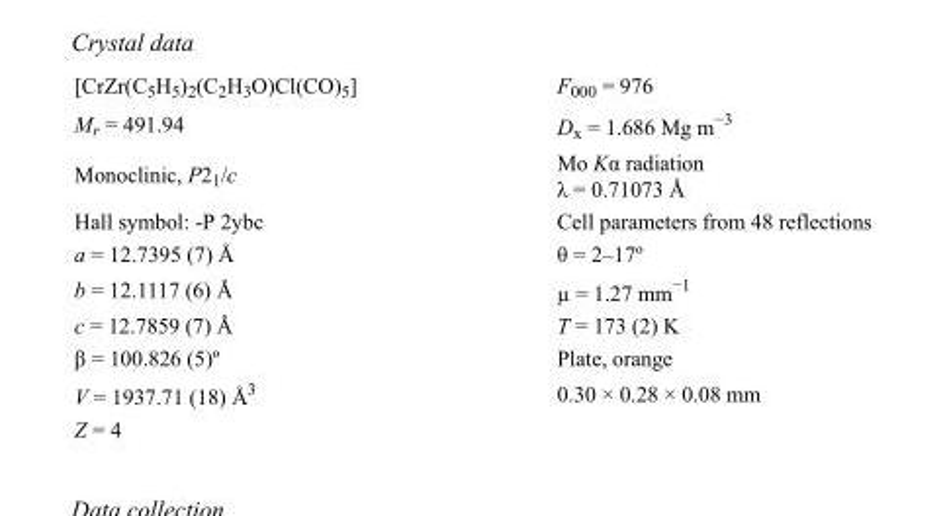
<table><tbody><tr><td>[CrZr(C<sub>5</sub>H<sub>5</sub>)<sub>2</sub>(C<sub>2</sub>H<sub>3</sub>O)Cl(CO)<sub>5</sub>]</td><td>F000 = 976</td></tr><tr><td>M<sub>r</sub> = 491.94</td><td>D<sub>x</sub> = 1.686 Mg m<sup>−3</sup></td></tr><tr><td>Monoclinic, P2<sub>1</sub>/c</td><td>Mo Kα radiation λ = 0.71073 Å</td></tr><tr><td>Hall symbol: -P 2ybc</td><td>Cell parameters from 48 reflections</td></tr><tr><td>a = 12.7395 (7) Å</td><td>θ = 2–17º</td></tr><tr><td>b = 12.1117 (6) Å</td><td>µ = 1.27 mm−1</td></tr><tr><td>c = 12.7859 (7) Å</td><td>T = 173 (2) K</td></tr><tr><td>β = 100.826 (5)º</td><td>Plate, orange</td></tr><tr><td>V = 1937.71 (18) Å<sup>3</sup></td><td>0.30 × 0.28 × 0.08 mm</td></tr><tr><td>Z = 4</td><td></td></tr></tbody></table>